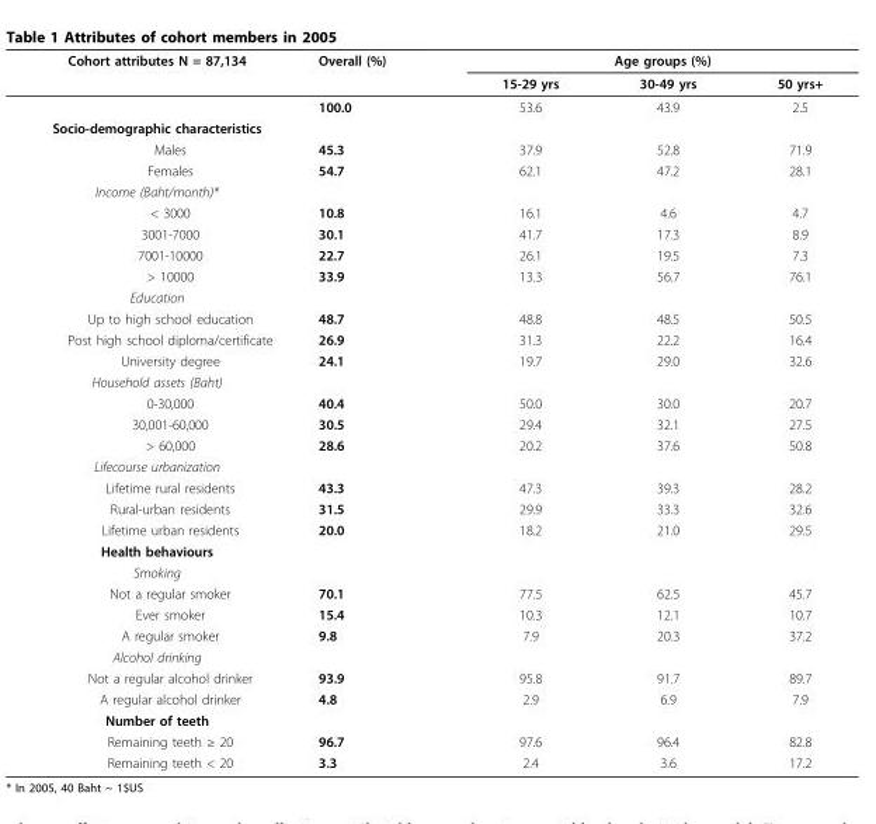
<table><thead><tr><td rowspan="2">Cohort attributes N = 87,134</td><td rowspan="2">Overall (%)</td><td colspan="3">Age groups (%)</td></tr><tr><td>15-29 yrs</td><td>30-49 yrs</td><td>50 yrs+</td></tr></thead><tbody><tr><td></td><td>100.0</td><td>53.6</td><td>43.9</td><td>2.5</td></tr><tr><td colspan="5">Socio-demographic characteristics</td></tr><tr><td>Males</td><td>45.3</td><td>37.9</td><td>52.8</td><td>71.9</td></tr><tr><td>Females</td><td>54.7</td><td>62.1</td><td>47.2</td><td>28.1</td></tr><tr><td colspan="5">Income (Baht/month)*</td></tr><tr><td>&lt; 3000</td><td>10.8</td><td>16.1</td><td>4.6</td><td>4.7</td></tr><tr><td>3001-7000</td><td>30.1</td><td>41.7</td><td>17.3</td><td>8.9</td></tr><tr><td>7001-10000</td><td>22.7</td><td>26.1</td><td>19.5</td><td>7.3</td></tr><tr><td>&gt; 10000</td><td>33.9</td><td>13.3</td><td>56.7</td><td>76.1</td></tr><tr><td colspan="5">Education</td></tr><tr><td>Up to high school education</td><td>48.7</td><td>48.8</td><td>48.5</td><td>50.5</td></tr><tr><td>Post high school diploma/certificate</td><td>26.9</td><td>31.3</td><td>22.2</td><td>16.4</td></tr><tr><td>University degree</td><td>24.1</td><td>19.7</td><td>29.0</td><td>32.6</td></tr><tr><td colspan="5">Household assets (Baht)</td></tr><tr><td>0-30,000</td><td>40.4</td><td>50.0</td><td>30.0</td><td>20.7</td></tr><tr><td>30,001-60,000</td><td>30.5</td><td>29.4</td><td>32.1</td><td>27.5</td></tr><tr><td>&gt; 60,000</td><td>28.6</td><td>20.2</td><td>37.6</td><td>50.8</td></tr><tr><td colspan="5">Lifecourse urbanization</td></tr><tr><td>Lifetime rural residents</td><td>43.3</td><td>47.3</td><td>39.3</td><td>28.2</td></tr><tr><td>Rural-urban residents</td><td>31.5</td><td>29.9</td><td>33.3</td><td>32.6</td></tr><tr><td>Lifetime urban residents</td><td>20.0</td><td>18.2</td><td>21.0</td><td>29.5</td></tr><tr><td colspan="5">Health behaviours</td></tr><tr><td colspan="5">Smoking</td></tr><tr><td>Not a regular smoker</td><td>70.1</td><td>77.5</td><td>62.5</td><td>45.7</td></tr><tr><td>Ever smoker</td><td>15.4</td><td>10.3</td><td>12.1</td><td>10.7</td></tr><tr><td>A regular smoker</td><td>9.8</td><td>7.9</td><td>20.3</td><td>37.2</td></tr><tr><td colspan="5">Alcohol drinking</td></tr><tr><td>Not a regular alcohol drinker</td><td>93.9</td><td>95.8</td><td>91.7</td><td>89.7</td></tr><tr><td>A regular alcohol drinker</td><td>4.8</td><td>2.9</td><td>6.9</td><td>7.9</td></tr><tr><td colspan="5">Number of teeth</td></tr><tr><td>Remaining teeth ≥ 20</td><td>96.7</td><td>97.6</td><td>96.4</td><td>82.8</td></tr><tr><td>Remaining teeth &lt; 20</td><td>3.3</td><td>2.4</td><td>3.6</td><td>17.2</td></tr></tbody></table>